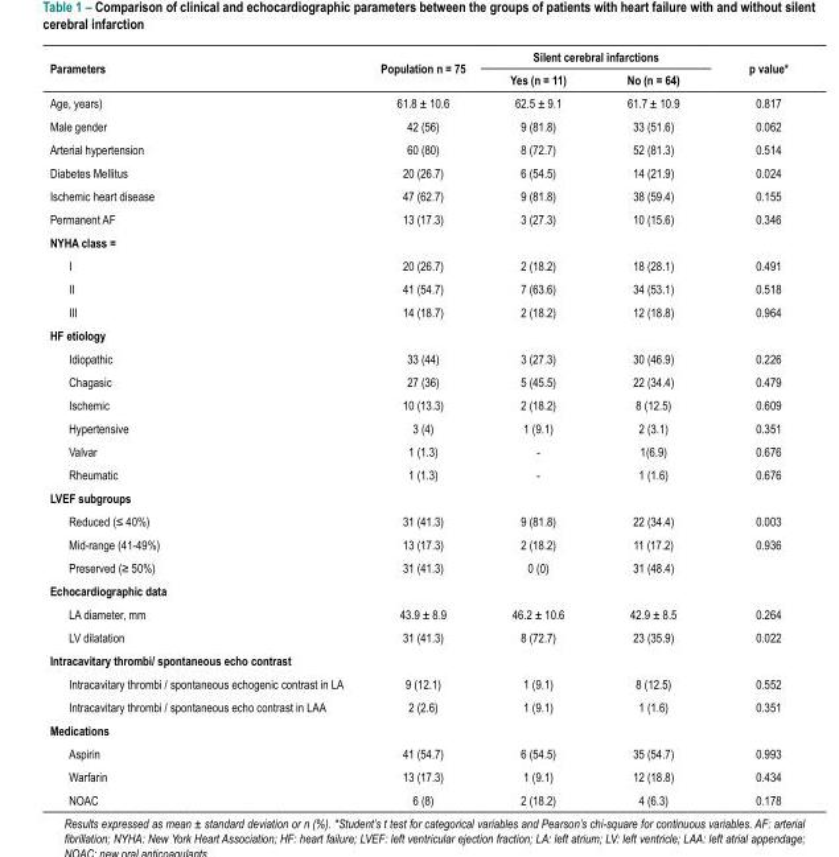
<table><thead><tr><td rowspan="2">Parameters</td><td rowspan="2">Population n = 75</td><td colspan="2">Silent cerebral infarctions</td><td rowspan="2">p value*</td></tr><tr><td>Yes (n = 11)</td><td>No (n = 64)</td></tr></thead><tbody><tr><td>Age, years)</td><td>61.8 ± 10.6</td><td>62.5 ± 9.1</td><td>61.7 ± 10.9</td><td>0.817</td></tr><tr><td>Male gender</td><td>42 (56)</td><td>9 (81.8)</td><td>33 (51.6)</td><td>0.062</td></tr><tr><td>Arterial hypertension</td><td>60 (80)</td><td>8 (72.7)</td><td>52 (81.3)</td><td>0.514</td></tr><tr><td>Diabetes Mellitus</td><td>20 (26.7)</td><td>6 (54.5)</td><td>14 (21.9)</td><td>0.024</td></tr><tr><td>Ischemic heart disease</td><td>47 (62.7)</td><td>9 (81.8)</td><td>38 (59.4)</td><td>0.155</td></tr><tr><td>Permanent AF</td><td>13 (17.3)</td><td>3 (27.3)</td><td>10 (15.6)</td><td>0.346</td></tr><tr><td colspan="5">NYHA class =</td></tr><tr><td>I</td><td>20 (26.7)</td><td>2 (18.2)</td><td>18 (28.1)</td><td>0.491</td></tr><tr><td>II</td><td>41 (54.7)</td><td>7 (63.6)</td><td>34 (53.1)</td><td>0.518</td></tr><tr><td>III</td><td>14 (18.7)</td><td>2 (18.2)</td><td>12 (18.8)</td><td>0.964</td></tr><tr><td colspan="5">HF etiology</td></tr><tr><td>Idiopathic</td><td>33 (44)</td><td>3 (27.3)</td><td>30 (46.9)</td><td>0.226</td></tr><tr><td>Chagasic</td><td>27 (36)</td><td>5 (45.5)</td><td>22 (34.4)</td><td>0.479</td></tr><tr><td>Ischemic</td><td>10 (13.3)</td><td>2 (18.2)</td><td>8 (12.5)</td><td>0.609</td></tr><tr><td>Hypertensive</td><td>3 (4)</td><td>1 (9.1)</td><td>2 (3.1)</td><td>0.351</td></tr><tr><td>Valvar</td><td>1 (1.3)</td><td>-</td><td>1(6.9)</td><td>0.676</td></tr><tr><td>Rheumatic</td><td>1 (1.3)</td><td>-</td><td>1 (1.6)</td><td>0.676</td></tr><tr><td colspan="5">LVEF subgroups</td></tr><tr><td>Reduced (≤ 40%)</td><td>31 (41.3)</td><td>9 (81.8)</td><td>22 (34.4)</td><td>0.003</td></tr><tr><td>Mid-range (41-49%)</td><td>13 (17.3)</td><td>2 (18.2)</td><td>11 (17.2)</td><td>0.936</td></tr><tr><td>Preserved (≥ 50%)</td><td>31 (41.3)</td><td>0 (0)</td><td>31 (48.4)</td><td></td></tr><tr><td colspan="5">Echocardiographic data</td></tr><tr><td>LA diameter, mm</td><td>43.9 ± 8.9</td><td>46.2 ± 10.6</td><td>42.9 ± 8.5</td><td>0.264</td></tr><tr><td>LV dilatation</td><td>31 (41.3)</td><td>8 (72.7)</td><td>23 (35.9)</td><td>0.022</td></tr><tr><td colspan="5">Intracavitary thrombi/ spontaneous echo contrast</td></tr><tr><td>Intracavitary thrombi / spontaneous echogenic contrast in LA</td><td>9 (12.1)</td><td>1 (9.1)</td><td>8 (12.5)</td><td>0.552</td></tr><tr><td>Intracavitary thrombi / spontaneous echo contrast in LAA</td><td>2 (2.6)</td><td>1 (9.1)</td><td>1 (1.6)</td><td>0.351</td></tr><tr><td colspan="5">Medications</td></tr><tr><td>Aspirin</td><td>41 (54.7)</td><td>6 (54.5)</td><td>35 (54.7)</td><td>0.993</td></tr><tr><td>Warfarin</td><td>13 (17.3)</td><td>1 (9.1)</td><td>12 (18.8)</td><td>0.434</td></tr><tr><td>NOAC</td><td>6 (8)</td><td>2 (18.2)</td><td>4 (6.3)</td><td>0.178</td></tr></tbody></table>